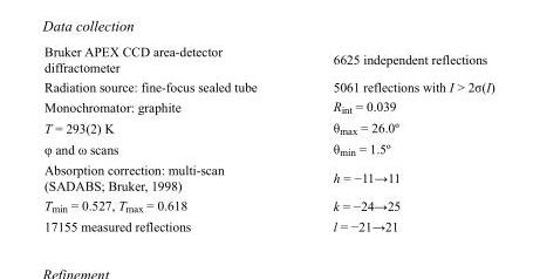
<table><tbody><tr><td>Bruker APEX CCD area-detector diffractometer</td><td>6625 independent reflections</td></tr><tr><td>Radiation source: fine-focus sealed tube</td><td>5061 reflections with I &gt; 2σ(I)</td></tr><tr><td>Monochromator: graphite</td><td>R<sub>int</sub> = 0.039</td></tr><tr><td>T = 293(2) K</td><td>θ<sub>max</sub> = 26.0º</td></tr><tr><td>φ and ω scans</td><td>θ<sub>min</sub> = 1.5º</td></tr><tr><td>Absorption correction: multi-scan (SADABS; Bruker, 1998)</td><td>h = −11→11</td></tr><tr><td>T<sub>min</sub> = 0.527, T<sub>max</sub> = 0.618</td><td>k = −24→25</td></tr><tr><td>17155 measured reflections</td><td>l = −21→21</td></tr></tbody></table>